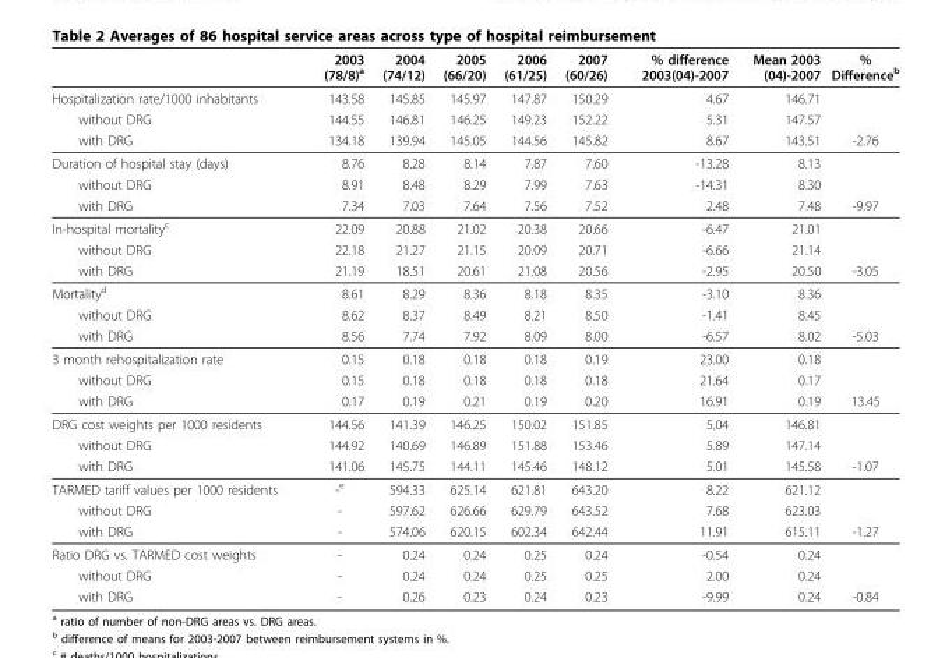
<table><thead><tr><td></td><td>2003 (78/8)<sup>a</sup></td><td>2004 (74/12)</td><td>2005 (66/20)</td><td>2006 (61/25)</td><td>2007 (60/26)</td><td>% difference 2003(04)-2007</td><td>Mean 2003 (04)-2007</td><td>% Difference<sup>b</sup></td></tr></thead><tbody><tr><td>Hospitalization rate/1000 inhabitants</td><td>143.58</td><td>145.85</td><td>145.97</td><td>147.87</td><td>150.29</td><td>4.67</td><td>146.71</td><td></td></tr><tr><td>without DRG</td><td>144.55</td><td>146.81</td><td>146.25</td><td>149.23</td><td>152.22</td><td>5.31</td><td>147.57</td><td></td></tr><tr><td>with DRG</td><td>134.18</td><td>139.94</td><td>145.05</td><td>144.56</td><td>145.82</td><td>8.67</td><td>143.51</td><td>-2.76</td></tr><tr><td>Duration of hospital stay (days)</td><td>8.76</td><td>8.28</td><td>8.14</td><td>7.87</td><td>7.60</td><td>-13.28</td><td>8.13</td><td></td></tr><tr><td>without DRG</td><td>8.91</td><td>8.48</td><td>8.29</td><td>7.99</td><td>7.63</td><td>-14.31</td><td>8.30</td><td></td></tr><tr><td>with DRG</td><td>7.34</td><td>7.03</td><td>7.64</td><td>7.56</td><td>7.52</td><td>2.48</td><td>7.48</td><td>-9.97</td></tr><tr><td>In-hospital mortality<sup>c</sup></td><td>22.09</td><td>20.88</td><td>21.02</td><td>20.38</td><td>20.66</td><td>-6.47</td><td>21.01</td><td></td></tr><tr><td>without DRG</td><td>22.18</td><td>21.27</td><td>21.15</td><td>20.09</td><td>20.71</td><td>-6.66</td><td>21.14</td><td></td></tr><tr><td>with DRG</td><td>21.19</td><td>18.51</td><td>20.61</td><td>21.08</td><td>20.56</td><td>-2.95</td><td>20.50</td><td>-3.05</td></tr><tr><td>Mortality<sup>d</sup></td><td>8.61</td><td>8.29</td><td>8.36</td><td>8.18</td><td>8.35</td><td>-3.10</td><td>8.36</td><td></td></tr><tr><td>without DRG</td><td>8.62</td><td>8.37</td><td>8.49</td><td>8.21</td><td>8.50</td><td>-1.41</td><td>8.45</td><td></td></tr><tr><td>with DRG</td><td>8.56</td><td>7.74</td><td>7.92</td><td>8.09</td><td>8.00</td><td>-6.57</td><td>8.02</td><td>-5.03</td></tr><tr><td>3 month rehospitalization rate</td><td>0.15</td><td>0.18</td><td>0.18</td><td>0.18</td><td>0.19</td><td>23.00</td><td>0.18</td><td></td></tr><tr><td>without DRG</td><td>0.15</td><td>0.18</td><td>0.18</td><td>0.18</td><td>0.18</td><td>21.64</td><td>0.17</td><td></td></tr><tr><td>with DRG</td><td>0.17</td><td>0.19</td><td>0.21</td><td>0.19</td><td>0.20</td><td>16.91</td><td>0.19</td><td>13.45</td></tr><tr><td>DRG cost weights per 1000 residents</td><td>144.56</td><td>141.39</td><td>146.25</td><td>150.02</td><td>151.85</td><td>5.04</td><td>146.81</td><td></td></tr><tr><td>without DRG</td><td>144.92</td><td>140.69</td><td>146.89</td><td>151.88</td><td>153.46</td><td>5.89</td><td>147.14</td><td></td></tr><tr><td>with DRG</td><td>141.06</td><td>145.75</td><td>144.11</td><td>145.46</td><td>148.12</td><td>5.01</td><td>145.58</td><td>-1.07</td></tr><tr><td>TARMED tariff values per 1000 residents</td><td>-<sup>e</sup></td><td>594.33</td><td>625.14</td><td>621.81</td><td>643.20</td><td>8.22</td><td>621.12</td><td></td></tr><tr><td>without DRG</td><td>-</td><td>597.62</td><td>626.66</td><td>629.79</td><td>643.52</td><td>7.68</td><td>623.03</td><td></td></tr><tr><td>with DRG</td><td>-</td><td>574.06</td><td>620.15</td><td>602.34</td><td>642.44</td><td>11.91</td><td>615.11</td><td>-1.27</td></tr><tr><td>Ratio DRG vs. TARMED cost weights</td><td>-</td><td>0.24</td><td>0.24</td><td>0.25</td><td>0.24</td><td>-0.54</td><td>0.24</td><td></td></tr><tr><td>without DRG</td><td>-</td><td>0.24</td><td>0.24</td><td>0.25</td><td>0.25</td><td>2.00</td><td>0.24</td><td></td></tr><tr><td>with DRG</td><td>-</td><td>0.26</td><td>0.23</td><td>0.24</td><td>0.23</td><td>-9.99</td><td>0.24</td><td>-0.84</td></tr></tbody></table>